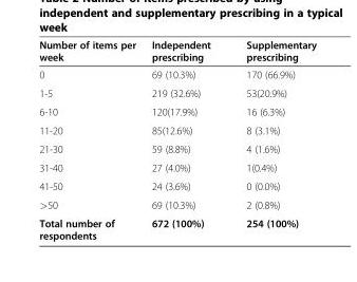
<table><thead><tr><td>Number of items per week</td><td>Independent prescribing</td><td>Supplementary prescribing</td></tr></thead><tbody><tr><td>0</td><td>69 (10.3%)</td><td>170 (66.9%)</td></tr><tr><td>1-5</td><td>219 (32.6%)</td><td>53(20.9%)</td></tr><tr><td>6-10</td><td>120(17.9%)</td><td>16 (6.3%)</td></tr><tr><td>11-20</td><td>85(12.6%)</td><td>8 (3.1%)</td></tr><tr><td>21-30</td><td>59 (8.8%)</td><td>4 (1.6%)</td></tr><tr><td>31-40</td><td>27 (4.0%)</td><td>1(0.4%)</td></tr><tr><td>41-50</td><td>24 (3.6%)</td><td>0 (0.0%)</td></tr><tr><td>&gt;50</td><td>69 (10.3%)</td><td>2 (0.8%)</td></tr><tr><td>Total number of respondents</td><td>672 (100%)</td><td>254 (100%)</td></tr></tbody></table>